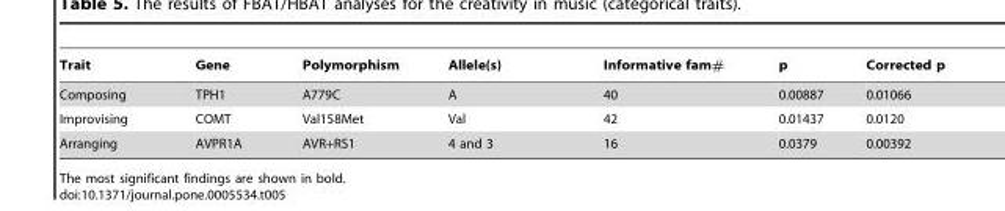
<table><thead><tr><td>Trait</td><td>Gene</td><td>Polymorphism</td><td>Allele(s)</td><td>Informative fam#</td><td>p</td><td>Corrected p</td></tr></thead><tbody><tr><td>Composing</td><td>TPH1</td><td>A779C</td><td>A</td><td>40</td><td>0.00887</td><td>0.01066</td></tr><tr><td>Improvising</td><td>COMT</td><td>Val158Met</td><td>Val</td><td>42</td><td>0.01437</td><td>0.0120</td></tr><tr><td>Arranging</td><td>AVPR1A</td><td>AVR+RS1</td><td>4 and 3</td><td>16</td><td>0.0379</td><td>0.00392</td></tr></tbody></table>